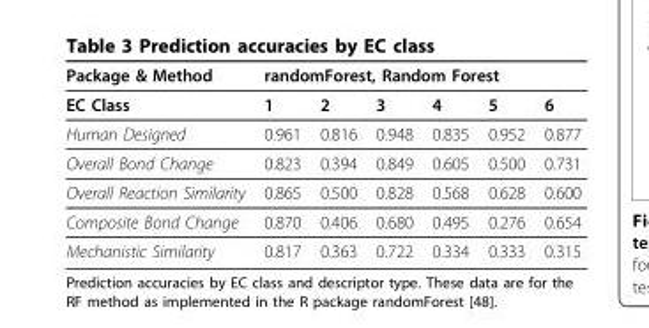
<table><thead><tr><td rowspan="2">Package &amp; Method EC Class</td><td colspan="6">randomForest, Random Forest</td></tr><tr><td>1</td><td>2</td><td>3</td><td>4</td><td>5</td><td>6</td></tr></thead><tbody><tr><td>Human Designed</td><td>0.961</td><td>0.816</td><td>0.948</td><td>0.835</td><td>0.952</td><td>0.877</td></tr><tr><td>Overall Bond Change</td><td>0.823</td><td>0.394</td><td>0.849</td><td>0.605</td><td>0.500</td><td>0.731</td></tr><tr><td>Overall Reaction Similarity</td><td>0.865</td><td>0.500</td><td>0.828</td><td>0.568</td><td>0.628</td><td>0.600</td></tr><tr><td>Composite Bond Change</td><td>0.870</td><td>0.406</td><td>0.680</td><td>0.495</td><td>0.276</td><td>0.654</td></tr><tr><td>Mechanistic Similarity</td><td>0.817</td><td>0.363</td><td>0.722</td><td>0.334</td><td>0.333</td><td>0.315</td></tr></tbody></table>